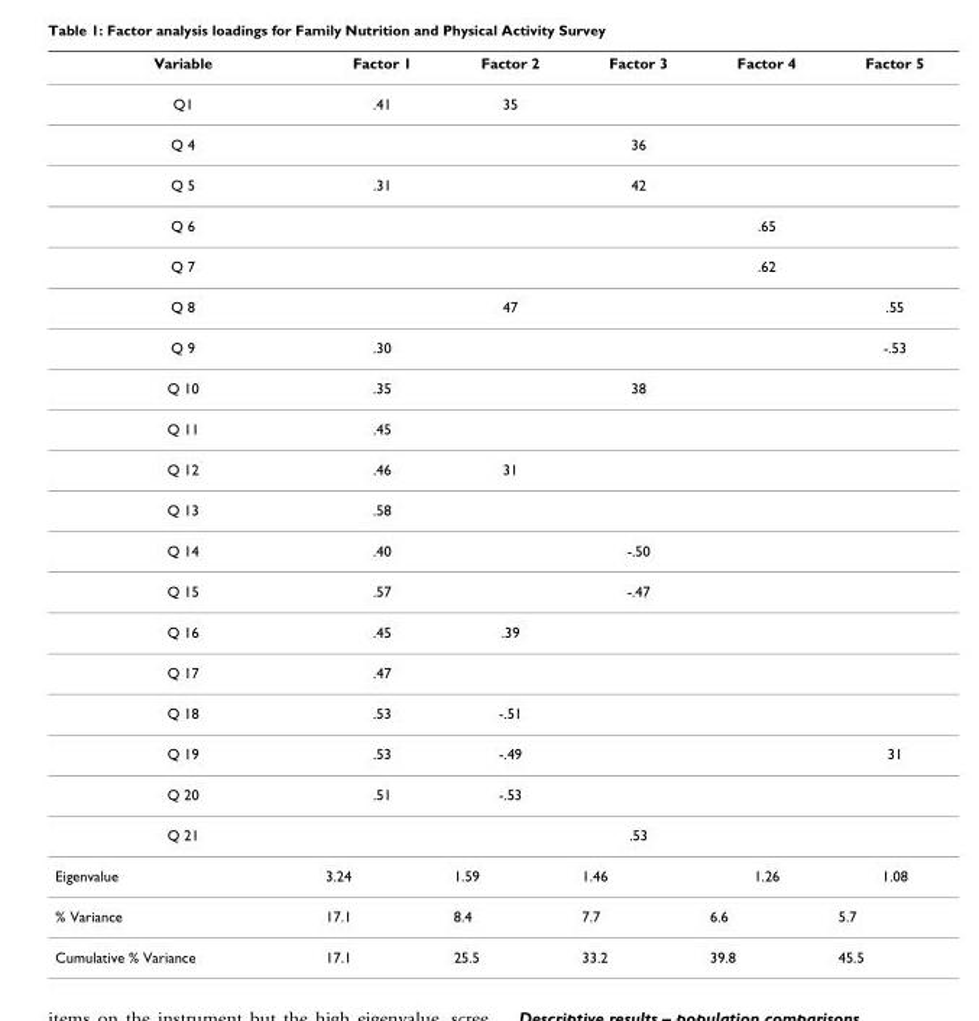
<table><thead><tr><td>Variable</td><td>Factor 1</td><td>Factor 2</td><td>Factor 3</td><td>Factor 4</td><td>Factor 5</td></tr></thead><tbody><tr><td>Q1</td><td>.41</td><td>35</td><td></td><td></td><td></td></tr><tr><td>Q 4</td><td></td><td></td><td>36</td><td></td><td></td></tr><tr><td>Q 5</td><td>.31</td><td></td><td>42</td><td></td><td></td></tr><tr><td>Q 6</td><td></td><td></td><td></td><td>.65</td><td></td></tr><tr><td>Q 7</td><td></td><td></td><td></td><td>.62</td><td></td></tr><tr><td>Q 8</td><td></td><td>47</td><td></td><td></td><td>.55</td></tr><tr><td>Q 9</td><td>.30</td><td></td><td></td><td></td><td>-.53</td></tr><tr><td>Q 10</td><td>.35</td><td></td><td>38</td><td></td><td></td></tr><tr><td>Q 11</td><td>.45</td><td></td><td></td><td></td><td></td></tr><tr><td>Q 12</td><td>.46</td><td>31</td><td></td><td></td><td></td></tr><tr><td>Q 13</td><td>.58</td><td></td><td></td><td></td><td></td></tr><tr><td>Q 14</td><td>.40</td><td></td><td>-.50</td><td></td><td></td></tr><tr><td>Q 15</td><td>.57</td><td></td><td>-.47</td><td></td><td></td></tr><tr><td>Q 16</td><td>.45</td><td>.39</td><td></td><td></td><td></td></tr><tr><td>Q 17</td><td>.47</td><td></td><td></td><td></td><td></td></tr><tr><td>Q 18</td><td>.53</td><td>-.51</td><td></td><td></td><td></td></tr><tr><td>Q 19</td><td>.53</td><td>-.49</td><td></td><td></td><td>31</td></tr><tr><td>Q 20</td><td>.51</td><td>-.53</td><td></td><td></td><td></td></tr><tr><td>Q 21</td><td></td><td></td><td>.53</td><td></td><td></td></tr><tr><td>Eigenvalue</td><td>3.24</td><td>1.59</td><td>1.46</td><td>1.26</td><td>1.08</td></tr><tr><td>% Variance</td><td>17.1</td><td>8.4</td><td>7.7</td><td>6.6</td><td>5.7</td></tr><tr><td>Cumulative % Variance</td><td>17.1</td><td>25.5</td><td>33.2</td><td>39.8</td><td>45.5</td></tr></tbody></table>